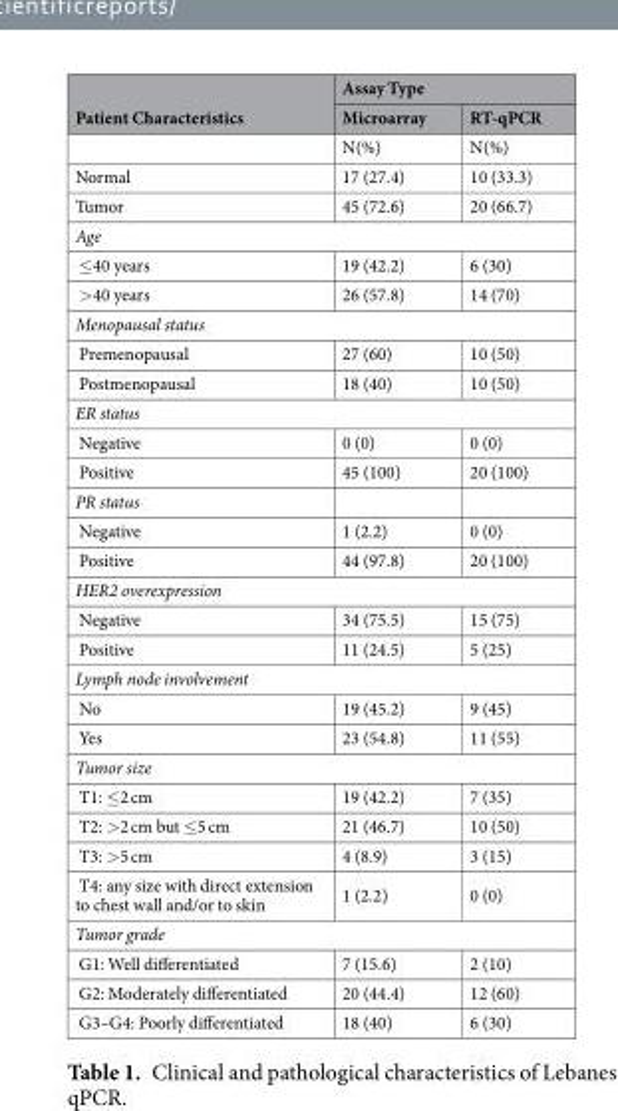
<table><thead><tr><td rowspan="2">Patient Characteristics</td><td colspan="2">Assay Type</td></tr><tr><td>Microarray</td><td>RT-qPCR</td></tr></thead><tbody><tr><td></td><td>N(%)</td><td>N(%)</td></tr><tr><td>Normal</td><td>17 (27.4)</td><td>10 (33.3)</td></tr><tr><td>Tumor</td><td>45 (72.6)</td><td>20 (66.7)</td></tr><tr><td colspan="3">Age</td></tr><tr><td>≤40 years</td><td>19 (42.2)</td><td>6 (30)</td></tr><tr><td>&gt;40 years</td><td>26 (57.8)</td><td>14 (70)</td></tr><tr><td colspan="3">Menopausal status</td></tr><tr><td>Premenopausal</td><td>27 (60)</td><td>10 (50)</td></tr><tr><td>Postmenopausal</td><td>18 (40)</td><td>10 (50)</td></tr><tr><td colspan="3">ER status</td></tr><tr><td>Negative</td><td>0 (0)</td><td>0 (0)</td></tr><tr><td>Positive</td><td>45 (100)</td><td>20 (100)</td></tr><tr><td colspan="3">PR status</td></tr><tr><td>Negative</td><td>1 (2.2)</td><td>0 (0)</td></tr><tr><td>Positive</td><td>44 (97.8)</td><td>20 (100)</td></tr><tr><td colspan="3">HER2 overexpression</td></tr><tr><td>Negative</td><td>34 (75.5)</td><td>15 (75)</td></tr><tr><td>Positive</td><td>11 (24.5)</td><td>5 (25)</td></tr><tr><td colspan="3">Lymph node involvement</td></tr><tr><td>No</td><td>19 (45.2)</td><td>9 (45)</td></tr><tr><td>Yes</td><td>23 (54.8)</td><td>11 (55)</td></tr><tr><td colspan="3">Tumor size</td></tr><tr><td>T1: ≤2 cm</td><td>19 (42.2)</td><td>7 (35)</td></tr><tr><td>T2: &gt;2 cm but ≤5 cm</td><td>21 (46.7)</td><td>10 (50)</td></tr><tr><td>T3: &gt;5 cm</td><td>4 (8.9)</td><td>3 (15)</td></tr><tr><td>T4: any size with direct extension to chest wall and/or to skin</td><td>1 (2.2)</td><td>0 (0)</td></tr><tr><td colspan="3">Tumor grade</td></tr><tr><td>G1: Well differentiated</td><td>7 (15.6)</td><td>2 (10)</td></tr><tr><td>G2: Moderately differentiated</td><td>20 (44.4)</td><td>12 (60)</td></tr><tr><td>G3–G4: Poorly differentiated</td><td>18 (40)</td><td>6 (30)</td></tr></tbody></table>